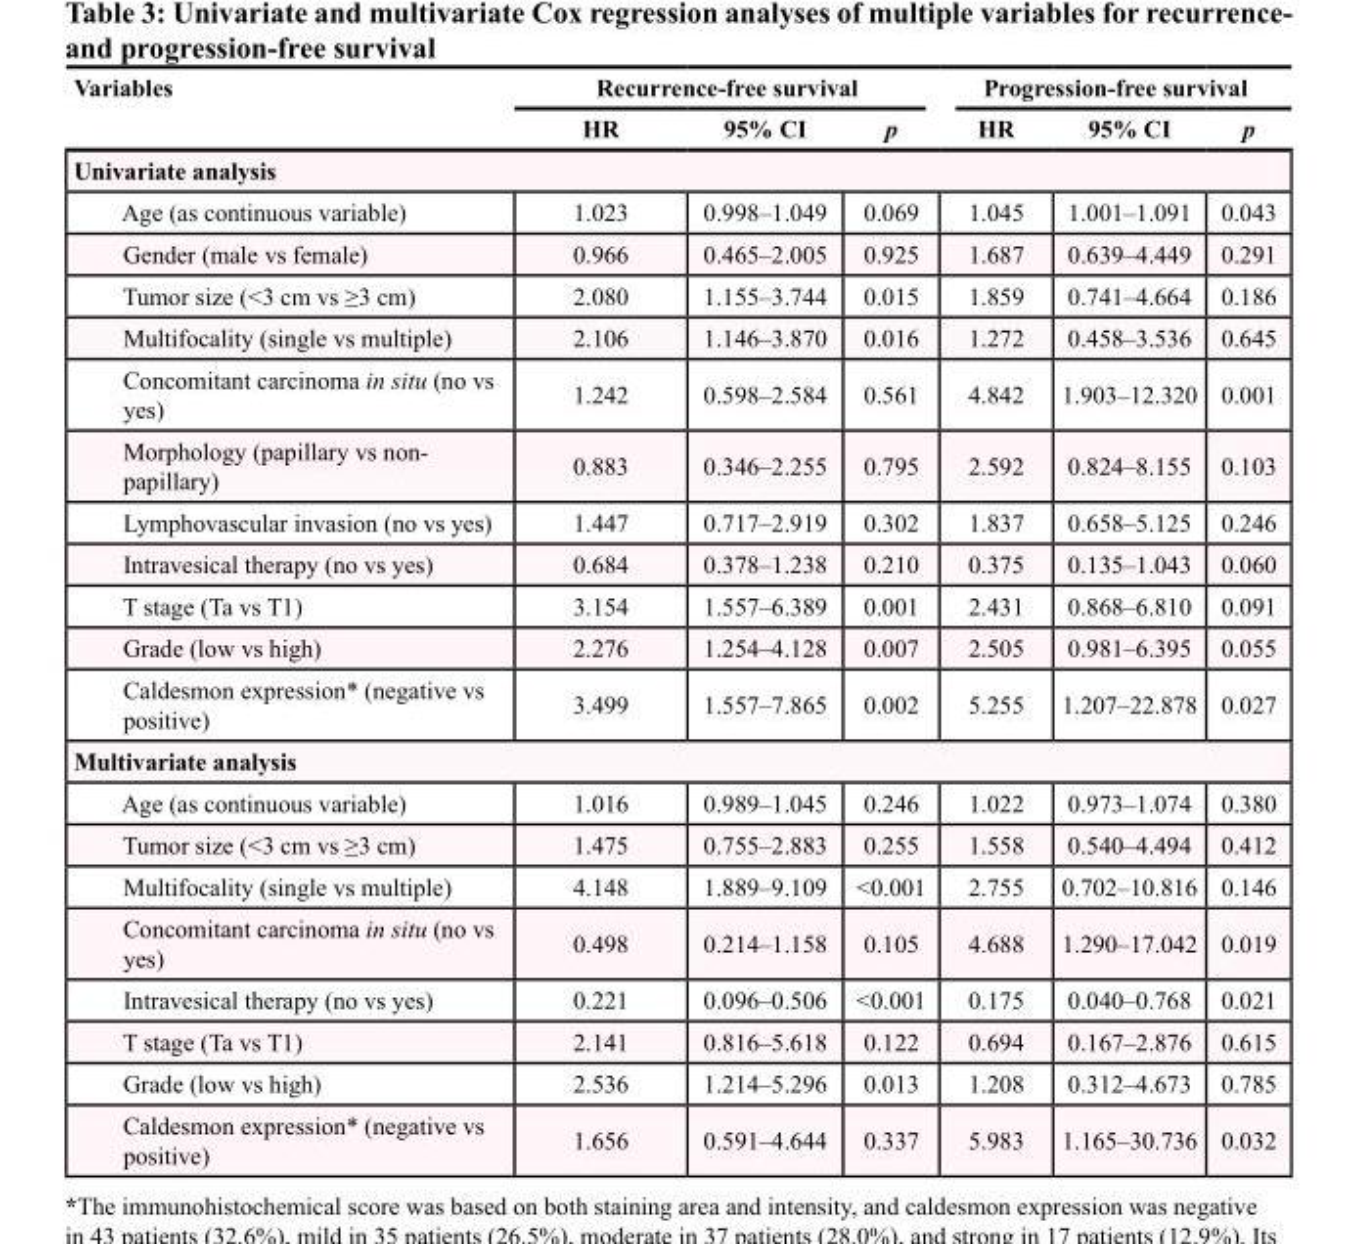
<table><thead><tr><td rowspan="2">Variables</td><td colspan="3">Recurrence-free survival</td><td colspan="3">Progression-free survival</td></tr><tr><td>HR</td><td>95% CI</td><td>p</td><td>HR</td><td>95% CI</td><td>p</td></tr></thead><tbody><tr><td colspan="7">Univariate analysis</td></tr><tr><td>Age (as continuous variable)</td><td>1.023</td><td>0.998–1.049</td><td>0.069</td><td>1.045</td><td>1.001–1.091</td><td>0.043</td></tr><tr><td>Gender (male vs female)</td><td>0.966</td><td>0.465–2.005</td><td>0.925</td><td>1.687</td><td>0.639–4.449</td><td>0.291</td></tr><tr><td>Tumor size (&lt;3 cm vs ≥3 cm)</td><td>2.080</td><td>1.155–3.744</td><td>0.015</td><td>1.859</td><td>0.741–4.664</td><td>0.186</td></tr><tr><td>Multifocality (single vs multiple)</td><td>2.106</td><td>1.146–3.870</td><td>0.016</td><td>1.272</td><td>0.458–3.536</td><td>0.645</td></tr><tr><td>Concomitant carcinoma in situ (no vs yes)</td><td>1.242</td><td>0.598–2.584</td><td>0.561</td><td>4.842</td><td>1.903–12.320</td><td>0.001</td></tr><tr><td>Morphology (papillary vs non- papillary)</td><td>0.883</td><td>0.346–2.255</td><td>0.795</td><td>2.592</td><td>0.824–8.155</td><td>0.103</td></tr><tr><td>Lymphovascular invasion (no vs yes)</td><td>1.447</td><td>0.717–2.919</td><td>0.302</td><td>1.837</td><td>0.658–5.125</td><td>0.246</td></tr><tr><td>Intravesical therapy (no vs yes)</td><td>0.684</td><td>0.378–1.238</td><td>0.210</td><td>0.375</td><td>0.135–1.043</td><td>0.060</td></tr><tr><td>T stage (Ta vs T1)</td><td>3.154</td><td>1.557–6.389</td><td>0.001</td><td>2.431</td><td>0.868–6.810</td><td>0.091</td></tr><tr><td>Grade (low vs high)</td><td>2.276</td><td>1.254–4.128</td><td>0.007</td><td>2.505</td><td>0.981–6.395</td><td>0.055</td></tr><tr><td>Caldesmon expression* (negative vs positive)</td><td>3.499</td><td>1.557–7.865</td><td>0.002</td><td>5.255</td><td>1.207–22.878</td><td>0.027</td></tr><tr><td colspan="7">Multivariate analysis</td></tr><tr><td>Age (as continuous variable)</td><td>1.016</td><td>0.989–1.045</td><td>0.246</td><td>1.022</td><td>0.973–1.074</td><td>0.380</td></tr><tr><td>Tumor size (&lt;3 cm vs ≥3 cm)</td><td>1.475</td><td>0.755–2.883</td><td>0.255</td><td>1.558</td><td>0.540–4.494</td><td>0.412</td></tr><tr><td>Multifocality (single vs multiple)</td><td>4.148</td><td>1.889–9.109</td><td>&lt;0.001</td><td>2.755</td><td>0.702–10.816</td><td>0.146</td></tr><tr><td>Concomitant carcinoma in situ (no vs yes)</td><td>0.498</td><td>0.214–1.158</td><td>0.105</td><td>4.688</td><td>1.290–17.042</td><td>0.019</td></tr><tr><td>Intravesical therapy (no vs yes)</td><td>0.221</td><td>0.096–0.506</td><td>&lt;0.001</td><td>0.175</td><td>0.040–0.768</td><td>0.021</td></tr><tr><td>T stage (Ta vs T1)</td><td>2.141</td><td>0.816–5.618</td><td>0.122</td><td>0.694</td><td>0.167–2.876</td><td>0.615</td></tr><tr><td>Grade (low vs high)</td><td>2.536</td><td>1.214–5.296</td><td>0.013</td><td>1.208</td><td>0.312–4.673</td><td>0.785</td></tr><tr><td>Caldesmon expression* (negative vs positive)</td><td>1.656</td><td>0.591–4.644</td><td>0.337</td><td>5.983</td><td>1.165–30.736</td><td>0.032</td></tr></tbody></table>